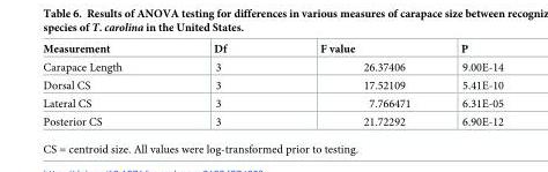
<table><thead><tr><td>Measurement</td><td>Df</td><td>F value</td><td>P</td></tr></thead><tbody><tr><td>Carapace Length</td><td>3</td><td>26.37406</td><td>9.00E-14</td></tr><tr><td>Dorsal CS</td><td>3</td><td>17.52109</td><td>5.41E-10</td></tr><tr><td>Lateral CS</td><td>3</td><td>7.766471</td><td>6.31E-05</td></tr><tr><td>Posterior CS</td><td>3</td><td>21.72292</td><td>6.90E-12</td></tr></tbody></table>